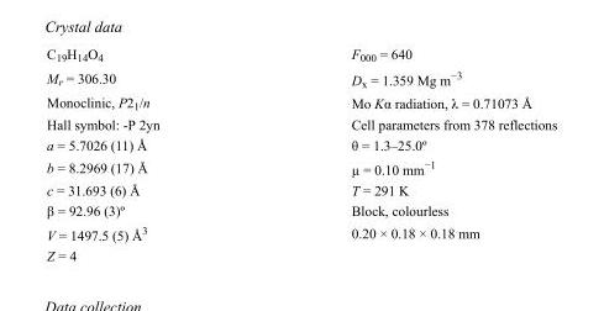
<table><tbody><tr><td>C<sub>19</sub>H<sub>14</sub>O<sub>4</sub></td><td>F000 = 640</td></tr><tr><td>M<sub>r</sub> = 306.30</td><td>D<sub>x</sub> = 1.359 Mg m<sup>−3</sup></td></tr><tr><td>Monoclinic, P2<sub>1</sub>/n</td><td>Mo Kα radiation, λ = 0.71073 Å</td></tr><tr><td>Hall symbol: -P 2yn</td><td>Cell parameters from 378 reflections</td></tr><tr><td>a = 5.7026 (11) Å</td><td>θ = 1.3–25.0º</td></tr><tr><td>b = 8.2969 (17) Å</td><td>µ = 0.10 mm<sup>−1</sup></td></tr><tr><td>c = 31.693 (6) Å</td><td>T = 291 K</td></tr><tr><td>β = 92.96 (3)º</td><td>Block, colourless</td></tr><tr><td>V = 1497.5 (5) Å<sup>3</sup></td><td>0.20 × 0.18 × 0.18 mm</td></tr><tr><td>Z = 4</td><td></td></tr></tbody></table>